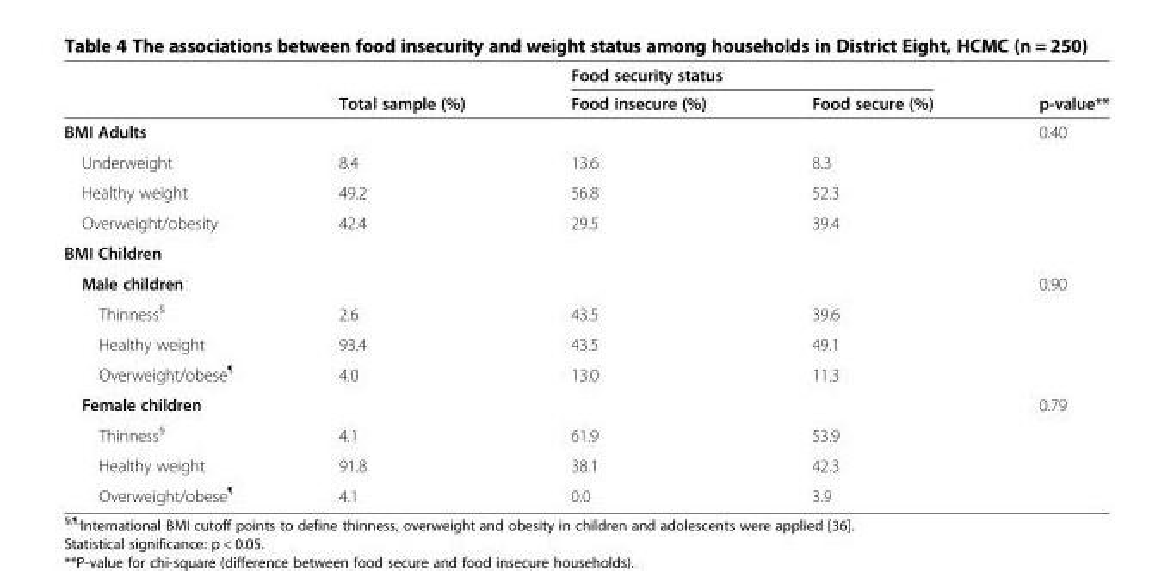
<table><thead><tr><td rowspan="2"></td><td rowspan="2">Total sample (%)</td><td colspan="2">Food security status</td><td rowspan="2">p-value**</td></tr><tr><td>Food insecure (%)</td><td>Food secure (%)</td></tr></thead><tbody><tr><td>BMI Adults</td><td></td><td></td><td></td><td>0.40</td></tr><tr><td>Underweight</td><td>8.4</td><td>13.6</td><td>8.3</td><td></td></tr><tr><td>Healthy weight</td><td>49.2</td><td>56.8</td><td>52.3</td><td></td></tr><tr><td>Overweight/obesity</td><td>42.4</td><td>29.5</td><td>39.4</td><td></td></tr><tr><td colspan="5">BMI Children</td></tr><tr><td>Male children</td><td></td><td></td><td></td><td>0.90</td></tr><tr><td>Thinness<sup>§</sup></td><td>2.6</td><td>43.5</td><td>39.6</td><td></td></tr><tr><td>Healthy weight</td><td>93.4</td><td>43.5</td><td>49.1</td><td></td></tr><tr><td>Overweight/obese<sup>¶</sup></td><td>4.0</td><td>13.0</td><td>11.3</td><td></td></tr><tr><td>Female children</td><td></td><td></td><td></td><td>0.79</td></tr><tr><td>Thinness<sup>§</sup></td><td>4.1</td><td>61.9</td><td>53.9</td><td></td></tr><tr><td>Healthy weight</td><td>91.8</td><td>38.1</td><td>42.3</td><td></td></tr><tr><td>Overweight/obese<sup>¶</sup></td><td>4.1</td><td>0.0</td><td>3.9</td><td></td></tr></tbody></table>